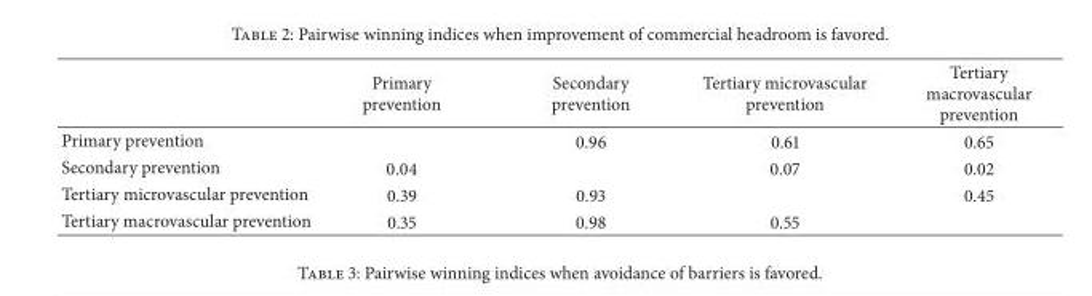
<table><thead><tr><td></td><td>Primary prevention</td><td>Secondary prevention</td><td>Tertiary microvascular prevention</td><td>Tertiary macrovascular prevention</td></tr></thead><tbody><tr><td>Primary prevention</td><td></td><td>0.96</td><td>0.61</td><td>0.65</td></tr><tr><td>Secondary prevention</td><td>0.04</td><td></td><td>0.07</td><td>0.02</td></tr><tr><td>Tertiary microvascular prevention</td><td>0.39</td><td>0.93</td><td></td><td>0.45</td></tr><tr><td>Tertiary macrovascular prevention</td><td>0.35</td><td>0.98</td><td>0.55</td><td></td></tr></tbody></table>